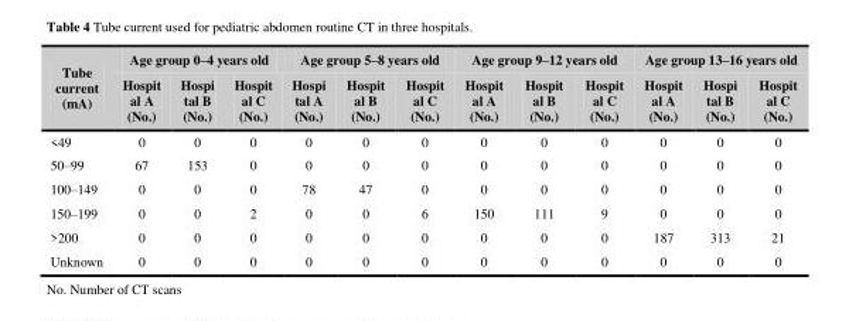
<table><thead><tr><td rowspan="2">Tube current (mA)</td><td colspan="3">Age group 0–4 years old</td><td colspan="3">Age group 5–8 years old</td><td colspan="3">Age group 9–12 years old</td><td colspan="3">Age group 13–16 years old</td></tr><tr><td>Hospit al A (No.)</td><td>Hospi tal B (No.)</td><td>Hospit al C (No.)</td><td>Hospi tal A (No.)</td><td>Hospit al B (No.)</td><td>Hospit al C (No.)</td><td>Hospit al A (No.)</td><td>Hospit al B (No.)</td><td>Hospit al C (No.)</td><td>Hospit al A (No.)</td><td>Hospi tal B (No.)</td><td>Hospit al C (No.)</td></tr></thead><tbody><tr><td>&lt;49</td><td>0</td><td>0</td><td>0</td><td>0</td><td>0</td><td>0</td><td>0</td><td>0</td><td>0</td><td>0</td><td>0</td><td>0</td></tr><tr><td>50–99</td><td>67</td><td>153</td><td>0</td><td>0</td><td>0</td><td>0</td><td>0</td><td>0</td><td>0</td><td>0</td><td>0</td><td>0</td></tr><tr><td>100–149</td><td>0</td><td>0</td><td>0</td><td>78</td><td>47</td><td>0</td><td>0</td><td>0</td><td>0</td><td>0</td><td>0</td><td>0</td></tr><tr><td>150–199</td><td>0</td><td>0</td><td>2</td><td>0</td><td>0</td><td>6</td><td>150</td><td>111</td><td>9</td><td>0</td><td>0</td><td>0</td></tr><tr><td>&gt;200</td><td>0</td><td>0</td><td>0</td><td>0</td><td>0</td><td>0</td><td>0</td><td>0</td><td>0</td><td>187</td><td>313</td><td>21</td></tr><tr><td>Unknown</td><td>0</td><td>0</td><td>0</td><td>0</td><td>0</td><td>0</td><td>0</td><td>0</td><td>0</td><td>0</td><td>0</td><td>0</td></tr></tbody></table>